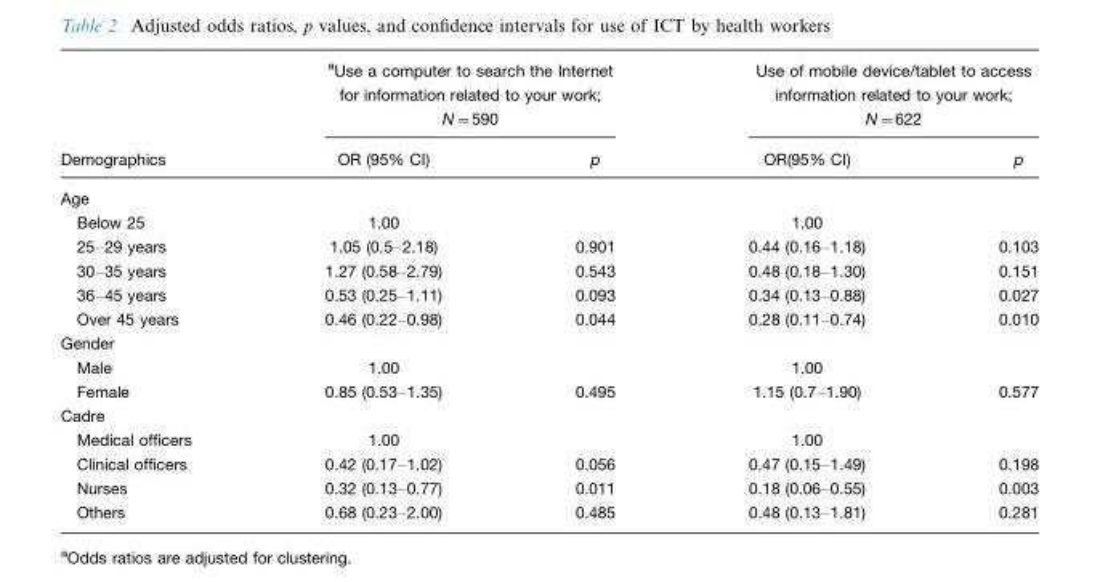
<table><thead><tr><td rowspan="2">Demographics</td><td colspan="2">aUse a computer to search the Internet for information related to your work; N=590</td><td colspan="2">Use of mobile device/tablet to access information related to your work; N=622</td></tr><tr><td>OR (95% CI)</td><td>p</td><td>OR(95% CI)</td><td>p</td></tr></thead><tbody><tr><td colspan="5">Age</td></tr><tr><td>Below 25</td><td>1.00</td><td></td><td>1.00</td><td></td></tr><tr><td>25–29 years</td><td>1.05 (0.5–2.18)</td><td>0.901</td><td>0.44 (0.16–1.18)</td><td>0.103</td></tr><tr><td>30–35 years</td><td>1.27 (0.58–2.79)</td><td>0.543</td><td>0.48 (0.18–1.30)</td><td>0.151</td></tr><tr><td>36–45 years</td><td>0.53 (0.25–1.11)</td><td>0.093</td><td>0.34 (0.13–0.88)</td><td>0.027</td></tr><tr><td>Over 45 years</td><td>0.46 (0.22–0.98)</td><td>0.044</td><td>0.28 (0.11–0.74)</td><td>0.010</td></tr><tr><td colspan="5">Gender</td></tr><tr><td>Male</td><td>1.00</td><td></td><td>1.00</td><td></td></tr><tr><td>Female</td><td>0.85 (0.53–1.35)</td><td>0.495</td><td>1.15 (0.7–1.90)</td><td>0.577</td></tr><tr><td colspan="5">Cadre</td></tr><tr><td>Medical officers</td><td>1.00</td><td></td><td>1.00</td><td></td></tr><tr><td>Clinical officers</td><td>0.42 (0.17–1.02)</td><td>0.056</td><td>0.47 (0.15–1.49)</td><td>0.198</td></tr><tr><td>Nurses</td><td>0.32 (0.13–0.77)</td><td>0.011</td><td>0.18 (0.06–0.55)</td><td>0.003</td></tr><tr><td>Others</td><td>0.68 (0.23–2.00)</td><td>0.485</td><td>0.48 (0.13–1.81)</td><td>0.281</td></tr></tbody></table>